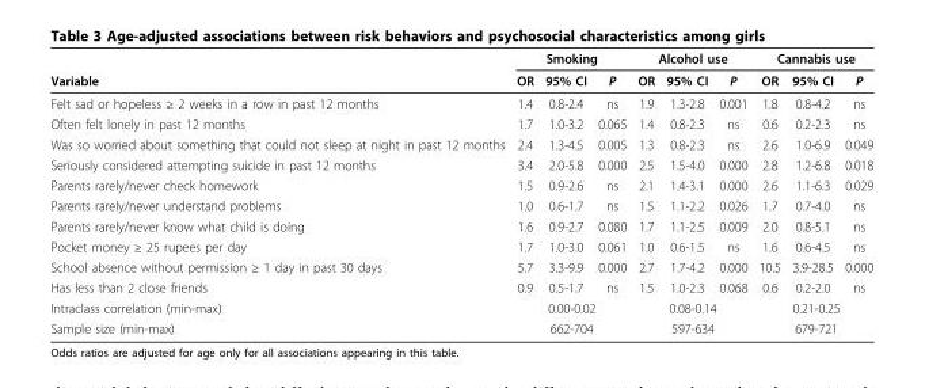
<table><thead><tr><td rowspan="2">Variable</td><td colspan="3">Smoking</td><td colspan="3">Alcohol use</td><td colspan="3">Cannabis use</td></tr><tr><td>OR</td><td>95% CI</td><td>P</td><td>OR</td><td>95% CI</td><td>P</td><td>OR</td><td>95% CI</td><td>P</td></tr></thead><tbody><tr><td>Felt sad or hopeless ≥ 2 weeks in a row in past 12 months</td><td>1.4</td><td>0.8-2.4</td><td>ns</td><td>1.9</td><td>1.3-2.8</td><td>0.001</td><td>1.8</td><td>0.8-4.2</td><td>ns</td></tr><tr><td>Often felt lonely in past 12 months</td><td>1.7</td><td>1.0-3.2</td><td>0.065</td><td>1.4</td><td>0.8-2.3</td><td>ns</td><td>0.6</td><td>0.2-2.3</td><td>ns</td></tr><tr><td>Was so worried about something that could not sleep at night in past 12 months</td><td>2.4</td><td>1.3-4.5</td><td>0.005</td><td>1.3</td><td>0.8-2.3</td><td>ns</td><td>2.6</td><td>1.0-6.9</td><td>0.049</td></tr><tr><td>Seriously considered attempting suicide in past 12 months</td><td>3.4</td><td>2.0-5.8</td><td>0.000</td><td>2.5</td><td>1.5-4.0</td><td>0.000</td><td>2.8</td><td>1.2-6.8</td><td>0.018</td></tr><tr><td>Parents rarely/never check homework</td><td>1.5</td><td>0.9-2.6</td><td>ns</td><td>2.1</td><td>1.4-3.1</td><td>0.000</td><td>2.6</td><td>1.1-6.3</td><td>0.029</td></tr><tr><td>Parents rarely/never understand problems</td><td>1.0</td><td>0.6-1.7</td><td>ns</td><td>1.5</td><td>1.1-2.2</td><td>0.026</td><td>1.7</td><td>0.7-4.0</td><td>ns</td></tr><tr><td>Parents rarely/never know what child is doing</td><td>1.6</td><td>0.9-2.7</td><td>0.080</td><td>1.7</td><td>1.1-2.5</td><td>0.009</td><td>2.0</td><td>0.8-5.1</td><td>ns</td></tr><tr><td>Pocket money ≥ 25 rupees per day</td><td>1.7</td><td>1.0-3.0</td><td>0.061</td><td>1.0</td><td>0.6-1.5</td><td>ns</td><td>1.6</td><td>0.6-4.5</td><td>ns</td></tr><tr><td>School absence without permission ≥ 1 day in past 30 days</td><td>5.7</td><td>3.3-9.9</td><td>0.000</td><td>2.7</td><td>1.7-4.2</td><td>0.000</td><td>10.5</td><td>3.9-28.5</td><td>0.000</td></tr><tr><td>Has less than 2 close friends</td><td>0.9</td><td>0.5-1.7</td><td>ns</td><td>1.5</td><td>1.0-2.3</td><td>0.068</td><td>0.6</td><td>0.2-2.0</td><td>ns</td></tr><tr><td>Intraclass correlation (min-max)</td><td colspan="3">0.00-0.02</td><td colspan="3">0.08-0.14</td><td colspan="3">0.21-0.25</td></tr><tr><td>Sample size (min-max)</td><td colspan="3">662-704</td><td colspan="3">597-634</td><td colspan="3">679-721</td></tr></tbody></table>